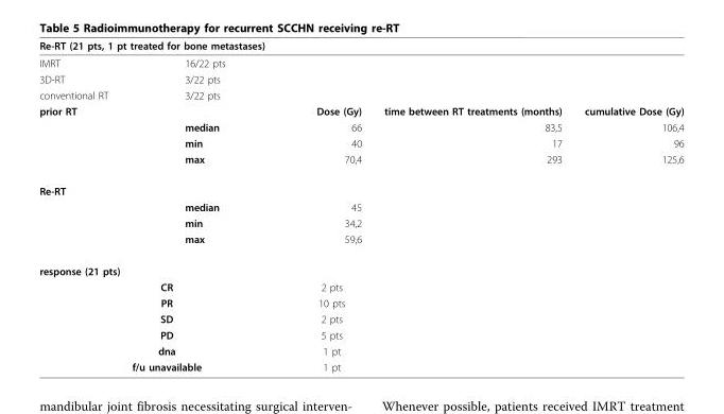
<table><thead><tr><td colspan="2">Re-RT (21 pts, 1 pt treated for bone metastases)</td><td rowspan="2"></td><td rowspan="2"></td><td rowspan="2"></td></tr><tr><td>IMRT</td><td>16/22 pts</td></tr></thead><tbody><tr><td>3D-RT</td><td>3/22 pts</td><td></td><td></td><td></td></tr><tr><td>conventional RT</td><td>3/22 pts</td><td></td><td></td><td></td></tr><tr><td colspan="2">prior RT</td><td>Dose (Gy)</td><td>time between RT treatments (months)</td><td>cumulative Dose (Gy)</td></tr><tr><td></td><td>median</td><td>66</td><td>83,5</td><td>106,4</td></tr><tr><td></td><td>min</td><td>40</td><td>17</td><td>96</td></tr><tr><td></td><td>max</td><td>70,4</td><td>293</td><td>125,6</td></tr><tr><td colspan="5">Re-RT</td></tr><tr><td></td><td>median</td><td>45</td><td></td><td></td></tr><tr><td></td><td>min</td><td>34,2</td><td></td><td></td></tr><tr><td></td><td>max</td><td>59,6</td><td></td><td></td></tr><tr><td colspan="5">response (21 pts)</td></tr><tr><td colspan="2">CR</td><td>2 pts</td><td></td><td></td></tr><tr><td colspan="2">PR</td><td>10 pts</td><td></td><td></td></tr><tr><td colspan="2">SD</td><td>2 pts</td><td></td><td></td></tr><tr><td colspan="2">PD</td><td>5 pts</td><td></td><td></td></tr><tr><td colspan="2">dna</td><td>1 pt</td><td></td><td></td></tr><tr><td colspan="2">f/u unavailable</td><td>1 pt</td><td></td><td></td></tr></tbody></table>